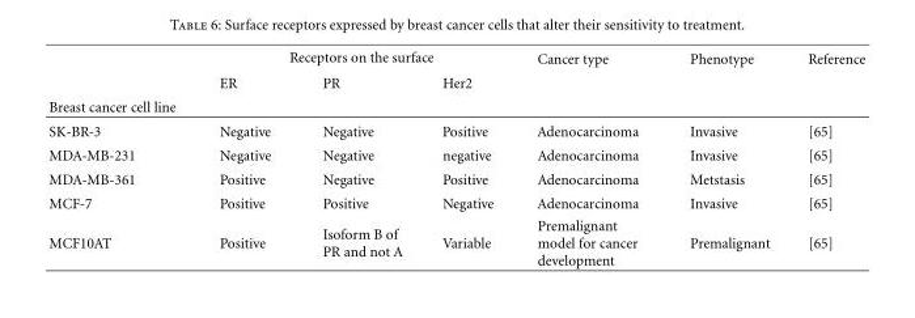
<table><thead><tr><td rowspan="3">Breast cancer cell line</td><td colspan="3">Receptors on the surface</td><td rowspan="3">Cancer type</td><td rowspan="3">Phenotype</td><td rowspan="3">Reference</td></tr><tr><td rowspan="2">ER</td><td rowspan="2">PR</td><td rowspan="2">Her2</td></tr><tr></tr></thead><tbody><tr><td>SK-BR-3</td><td>Negative</td><td>Negative</td><td>Positive</td><td>Adenocarcinoma</td><td>Invasive</td><td>[65]</td></tr><tr><td>MDA-MB-231</td><td>Negative</td><td>Negative</td><td>negative</td><td>Adenocarcinoma</td><td>Invasive</td><td>[65]</td></tr><tr><td>MDA-MB-361</td><td>Positive</td><td>Negative</td><td>Positive</td><td>Adenocarcinoma</td><td>Metstasis</td><td>[65]</td></tr><tr><td>MCF-7</td><td>Positive</td><td>Positive</td><td>Negative</td><td>Adenocarcinoma</td><td>Invasive</td><td>[65]</td></tr><tr><td>MCF10AT</td><td>Positive</td><td>Isoform B of PR and not A</td><td>Variable</td><td>Premalignant model for cancer development</td><td>Premalignant</td><td>[65]</td></tr></tbody></table>